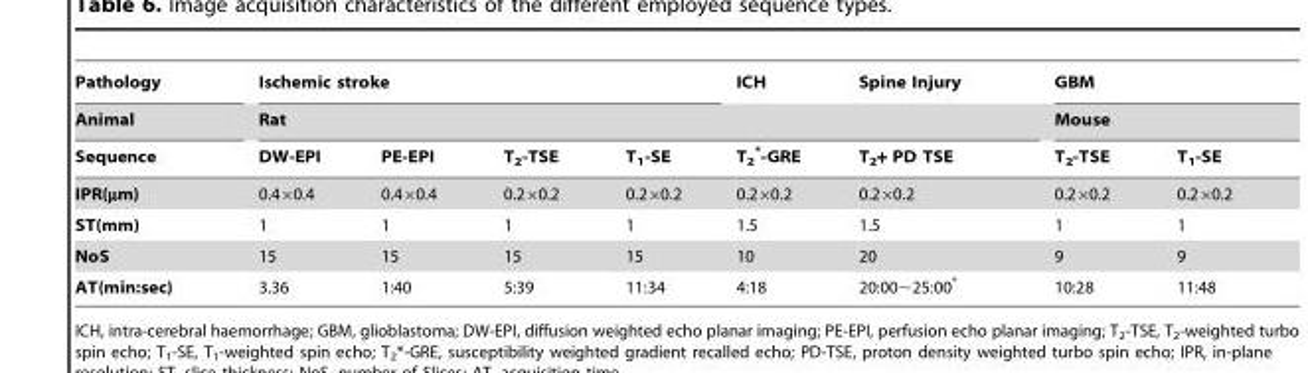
<table><thead><tr><td rowspan="3">Pathology Animal Sequence</td><td colspan="4">Ischemic stroke</td><td>ICH</td><td>Spine Injury</td><td rowspan="2" colspan="2">GBM Mouse</td></tr><tr><td colspan="6">Rat</td></tr><tr><td>DW-EPI</td><td>PE-EPI</td><td>T<sub>2</sub>-TSE</td><td>T<sub>1</sub>-SE</td><td>T<sub>2</sub> *-GRE</td><td>T<sub>2</sub>+ PD TSE</td><td>T<sub>2</sub>-TSE</td><td>T<sub>1</sub>-SE</td></tr></thead><tbody><tr><td>IPR(µm)</td><td>0.4×0.4</td><td>0.4×0.4</td><td>0.2×0.2</td><td>0.2×0.2</td><td>0.2×0.2</td><td>0.2×0.2</td><td>0.2×0.2</td><td>0.2×0.2</td></tr><tr><td>ST(mm)</td><td>1</td><td>1</td><td>1</td><td>1</td><td>1.5</td><td>1.5</td><td>1</td><td>1</td></tr><tr><td>NoS</td><td>15</td><td>15</td><td>15</td><td>15</td><td>10</td><td>20</td><td>9</td><td>9</td></tr><tr><td>AT(min:sec)</td><td>3.36</td><td>1:40</td><td>5:39</td><td>11:34</td><td>4:18</td><td>20:00∼25:00*</td><td>10:28</td><td>11:48</td></tr></tbody></table>